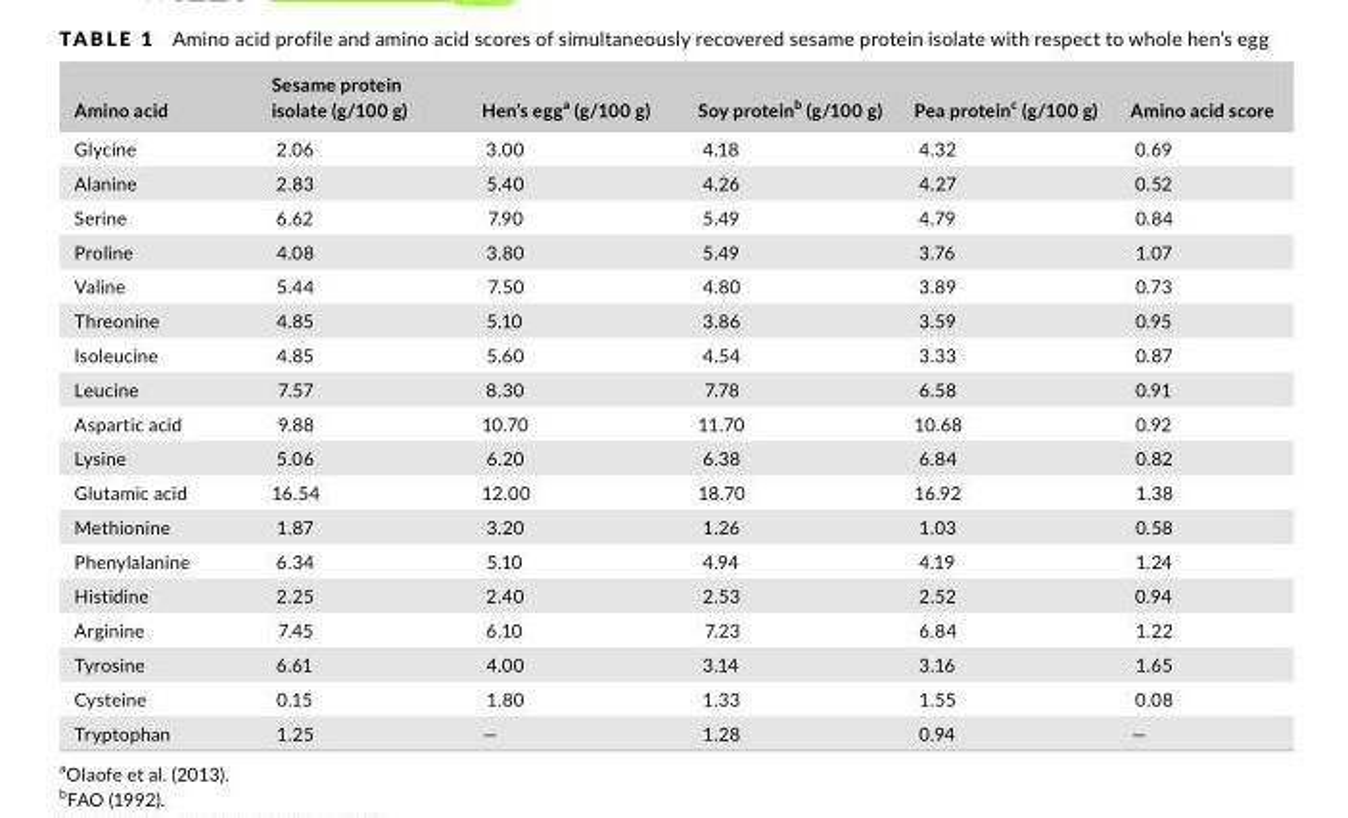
<table><thead><tr><td>Amino acid</td><td>Sesame protein isolate (g/100 g)</td><td>Hen’s egg<sup>a</sup> (g/100 g)</td><td>Soy protein<sup>b</sup> (g/100 g)</td><td>Pea protein<sup>c</sup> (g/100 g)</td><td>Amino acid score</td></tr></thead><tbody><tr><td>Glycine</td><td>2.06</td><td>3.00</td><td>4.18</td><td>4.32</td><td>0.69</td></tr><tr><td>Alanine</td><td>2.83</td><td>5.40</td><td>4.26</td><td>4.27</td><td>0.52</td></tr><tr><td>Serine</td><td>6.62</td><td>7.90</td><td>5.49</td><td>4.79</td><td>0.84</td></tr><tr><td>Proline</td><td>4.08</td><td>3.80</td><td>5.49</td><td>3.76</td><td>1.07</td></tr><tr><td>Valine</td><td>5.44</td><td>7.50</td><td>4.80</td><td>3.89</td><td>0.73</td></tr><tr><td>Threonine</td><td>4.85</td><td>5.10</td><td>3.86</td><td>3.59</td><td>0.95</td></tr><tr><td>Isoleucine</td><td>4.85</td><td>5.60</td><td>4.54</td><td>3.33</td><td>0.87</td></tr><tr><td>Leucine</td><td>7.57</td><td>8.30</td><td>7.78</td><td>6.58</td><td>0.91</td></tr><tr><td>Aspartic acid</td><td>9.88</td><td>10.70</td><td>11.70</td><td>10.68</td><td>0.92</td></tr><tr><td>Lysine</td><td>5.06</td><td>6.20</td><td>6.38</td><td>6.84</td><td>0.82</td></tr><tr><td>Glutamic acid</td><td>16.54</td><td>12.00</td><td>18.70</td><td>16.92</td><td>1.38</td></tr><tr><td>Methionine</td><td>1.87</td><td>3.20</td><td>1.26</td><td>1.03</td><td>0.58</td></tr><tr><td>Phenylalanine</td><td>6.34</td><td>5.10</td><td>4.94</td><td>4.19</td><td>1.24</td></tr><tr><td>Histidine</td><td>2.25</td><td>2.40</td><td>2.53</td><td>2.52</td><td>0.94</td></tr><tr><td>Arginine</td><td>7.45</td><td>6.10</td><td>7.23</td><td>6.84</td><td>1.22</td></tr><tr><td>Tyrosine</td><td>6.61</td><td>4.00</td><td>3.14</td><td>3.16</td><td>1.65</td></tr><tr><td>Cysteine</td><td>0.15</td><td>1.80</td><td>1.33</td><td>1.55</td><td>0.08</td></tr><tr><td>Tryptophan</td><td>1.25</td><td>—</td><td>1.28</td><td>0.94</td><td>—</td></tr></tbody></table>